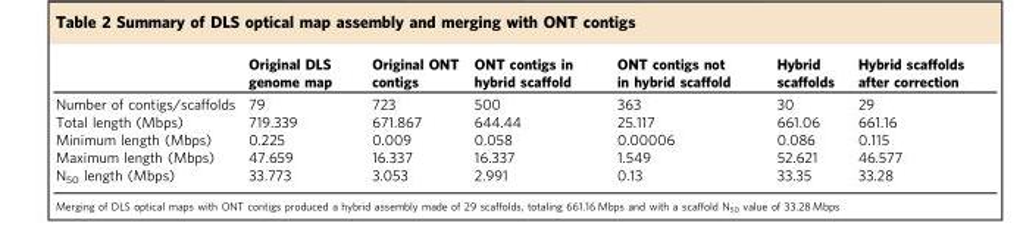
<table><thead><tr><td></td><td>Original DLS genome map</td><td>Original ONT contigs</td><td>ONT contigs in hybrid scaffold</td><td>ONT contigs not in hybrid scaffold</td><td>Hybrid scaffolds</td><td>Hybrid scaffolds after correction</td></tr></thead><tbody><tr><td>Number of contigs/scaffolds</td><td>79</td><td>723</td><td>500</td><td>363</td><td>30</td><td>29</td></tr><tr><td>Total length (Mbps)</td><td>719.339</td><td>671.867</td><td>644.44</td><td>25.117</td><td>661.06</td><td>661.16</td></tr><tr><td>Minimum length (Mbps)</td><td>0.225</td><td>0.009</td><td>0.058</td><td>0.00006</td><td>0.086</td><td>0.115</td></tr><tr><td>Maximum length (Mbps)</td><td>47.659</td><td>16.337</td><td>16.337</td><td>1.549</td><td>52.621</td><td>46.577</td></tr><tr><td>N<sub>50</sub> length (Mbps)</td><td>33.773</td><td>3.053</td><td>2.991</td><td>0.13</td><td>33.35</td><td>33.28</td></tr></tbody></table>